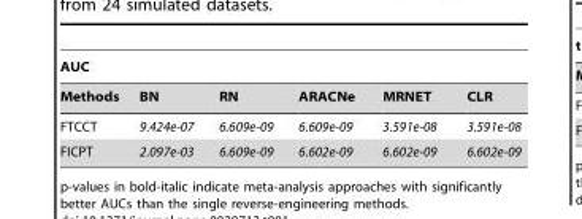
<table><thead><tr><td colspan="6">AUC</td></tr><tr><td>Methods</td><td>BN</td><td>RN</td><td>ARACNe</td><td>MRNET</td><td>CLR</td></tr></thead><tbody><tr><td>FTCCT</td><td>9.424e-07</td><td>6.609e-09</td><td>6.609e-09</td><td>3.591e-08</td><td>3.591e-08</td></tr><tr><td>FICPT</td><td>2.097e-03</td><td>6.609e-09</td><td>6.602e-09</td><td>6.602e-09</td><td>6.602e-09</td></tr></tbody></table>